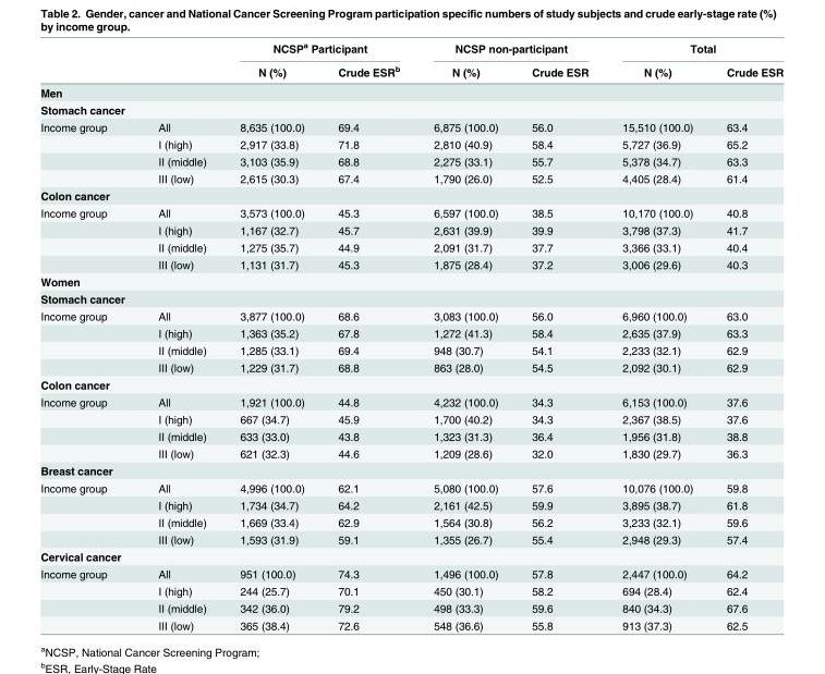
<table><thead><tr><td rowspan="2"></td><td rowspan="2"></td><td colspan="2">NCSP<sup>a</sup> Participant</td><td colspan="2">NCSP non-participant</td><td colspan="2">Total</td></tr><tr><td>N (%)</td><td>Crude ESR<sup>b</sup></td><td>N (%)</td><td>Crude ESR</td><td>N (%)</td><td>Crude ESR</td></tr></thead><tbody><tr><td colspan="8">Men</td></tr><tr><td colspan="8">Stomach cancer</td></tr><tr><td rowspan="4">Income group</td><td>All</td><td>8,635 (100.0)</td><td>69.4</td><td>6,875 (100.0)</td><td>56.0</td><td>15,510 (100.0)</td><td>63.4</td></tr><tr><td>I (high)</td><td>2,917 (33.8)</td><td>71.8</td><td>2,810 (40.9)</td><td>58.4</td><td>5,727 (36.9)</td><td>65.2</td></tr><tr><td>II (middle)</td><td>3,103 (35.9)</td><td>68.8</td><td>2,275 (33.1)</td><td>55.7</td><td>5,378 (34.7)</td><td>63.3</td></tr><tr><td>III (low)</td><td>2,615 (30.3)</td><td>67.4</td><td>1,790 (26.0)</td><td>52.5</td><td>4,405 (28.4)</td><td>61.4</td></tr><tr><td colspan="8">Colon cancer</td></tr><tr><td rowspan="4">Income group</td><td>All</td><td>3,573 (100.0)</td><td>45.3</td><td>6,597 (100.0)</td><td>38.5</td><td>10,170 (100.0)</td><td>40.8</td></tr><tr><td>I (high)</td><td>1,167 (32.7)</td><td>45.7</td><td>2,631 (39.9)</td><td>39.9</td><td>3,798 (37.3)</td><td>41.7</td></tr><tr><td>II (middle)</td><td>1,275 (35.7)</td><td>44.9</td><td>2,091 (31.7)</td><td>37.7</td><td>3,366 (33.1)</td><td>40.4</td></tr><tr><td>III (low)</td><td>1,131 (31.7)</td><td>45.3</td><td>1,875 (28.4)</td><td>37.2</td><td>3,006 (29.6)</td><td>40.3</td></tr><tr><td colspan="8">Women</td></tr><tr><td colspan="8">Stomach cancer</td></tr><tr><td rowspan="4">Income group</td><td>All</td><td>3,877 (100.0)</td><td>68.6</td><td>3,083 (100.0)</td><td>56.0</td><td>6,960 (100.0)</td><td>63.0</td></tr><tr><td>I (high)</td><td>1,363 (35.2)</td><td>67.8</td><td>1,272 (41.3)</td><td>58.4</td><td>2,635 (37.9)</td><td>63.3</td></tr><tr><td>II (middle)</td><td>1,285 (33.1)</td><td>69.4</td><td>948 (30.7)</td><td>54.1</td><td>2,233 (32.1)</td><td>62.9</td></tr><tr><td>III (low)</td><td>1,229 (31.7)</td><td>68.8</td><td>863 (28.0)</td><td>54.5</td><td>2,092 (30.1)</td><td>62.9</td></tr><tr><td colspan="8">Colon cancer</td></tr><tr><td rowspan="4">Income group</td><td>All</td><td>1,921 (100.0)</td><td>44.8</td><td>4,232 (100.0)</td><td>34.3</td><td>6,153 (100.0)</td><td>37.6</td></tr><tr><td>I (high)</td><td>667 (34.7)</td><td>45.9</td><td>1,700 (40.2)</td><td>34.3</td><td>2,367 (38.5)</td><td>37.6</td></tr><tr><td>II (middle)</td><td>633 (33.0)</td><td>43.8</td><td>1,323 (31.3)</td><td>36.4</td><td>1,956 (31.8)</td><td>38.8</td></tr><tr><td>III (low)</td><td>621 (32.3)</td><td>44.6</td><td>1,209 (28.6)</td><td>32.0</td><td>1,830 (29.7)</td><td>36.3</td></tr><tr><td colspan="8">Breast cancer</td></tr><tr><td rowspan="4">Income group</td><td>All</td><td>4,996 (100.0)</td><td>62.1</td><td>5,080 (100.0)</td><td>57.6</td><td>10,076 (100.0)</td><td>59.8</td></tr><tr><td>I (high)</td><td>1,734 (34.7)</td><td>64.2</td><td>2,161 (42.5)</td><td>59.9</td><td>3,895 (38.7)</td><td>61.8</td></tr><tr><td>II (middle)</td><td>1,669 (33.4)</td><td>62.9</td><td>1,564 (30.8)</td><td>56.2</td><td>3,233 (32.1)</td><td>59.6</td></tr><tr><td>III (low)</td><td>1,593 (31.9)</td><td>59.1</td><td>1,355 (26.7)</td><td>55.4</td><td>2,948 (29.3)</td><td>57.4</td></tr><tr><td colspan="8">Cervical cancer</td></tr><tr><td rowspan="4">Income group</td><td>All</td><td>951 (100.0)</td><td>74.3</td><td>1,496 (100.0)</td><td>57.8</td><td>2,447 (100.0)</td><td>64.2</td></tr><tr><td>I (high)</td><td>244 (25.7)</td><td>70.1</td><td>450 (30.1)</td><td>58.2</td><td>694 (28.4)</td><td>62.4</td></tr><tr><td>II (middle)</td><td>342 (36.0)</td><td>79.2</td><td>498 (33.3)</td><td>59.6</td><td>840 (34.3)</td><td>67.6</td></tr><tr><td>III (low)</td><td>365 (38.4)</td><td>72.6</td><td>548 (36.6)</td><td>55.8</td><td>913 (37.3)</td><td>62.5</td></tr></tbody></table>